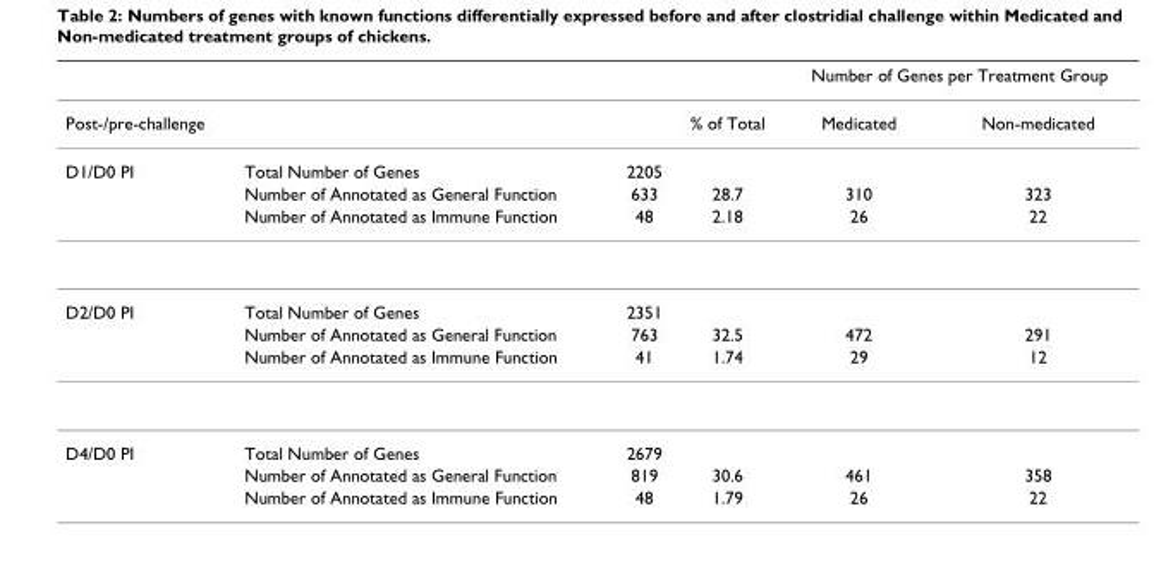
<table><thead><tr><td rowspan="2">Post-/pre-challenge</td><td rowspan="2"></td><td rowspan="2"></td><td rowspan="2">% of Total</td><td colspan="2">Number of Genes per Treatment Group</td></tr><tr><td>Medicated</td><td>Non-medicated</td></tr></thead><tbody><tr><td rowspan="3">D1/D0 PI</td><td>Total Number of Genes</td><td>2205</td><td></td><td></td><td></td></tr><tr><td>Number of Annotated as General Function</td><td>633</td><td>28.7</td><td>310</td><td>323</td></tr><tr><td>Number of Annotated as Immune Function</td><td>48</td><td>2.18</td><td>26</td><td>22</td></tr><tr><td rowspan="3">D2/D0 PI</td><td>Total Number of Genes</td><td>2351</td><td></td><td></td><td></td></tr><tr><td>Number of Annotated as General Function</td><td>763</td><td>32.5</td><td>472</td><td>291</td></tr><tr><td>Number of Annotated as Immune Function</td><td>41</td><td>1.74</td><td>29</td><td>12</td></tr><tr><td rowspan="3">D4/D0 PI</td><td>Total Number of Genes</td><td>2679</td><td></td><td></td><td></td></tr><tr><td>Number of Annotated as General Function</td><td>819</td><td>30.6</td><td>461</td><td>358</td></tr><tr><td>Number of Annotated as Immune Function</td><td>48</td><td>1.79</td><td>26</td><td>22</td></tr></tbody></table>